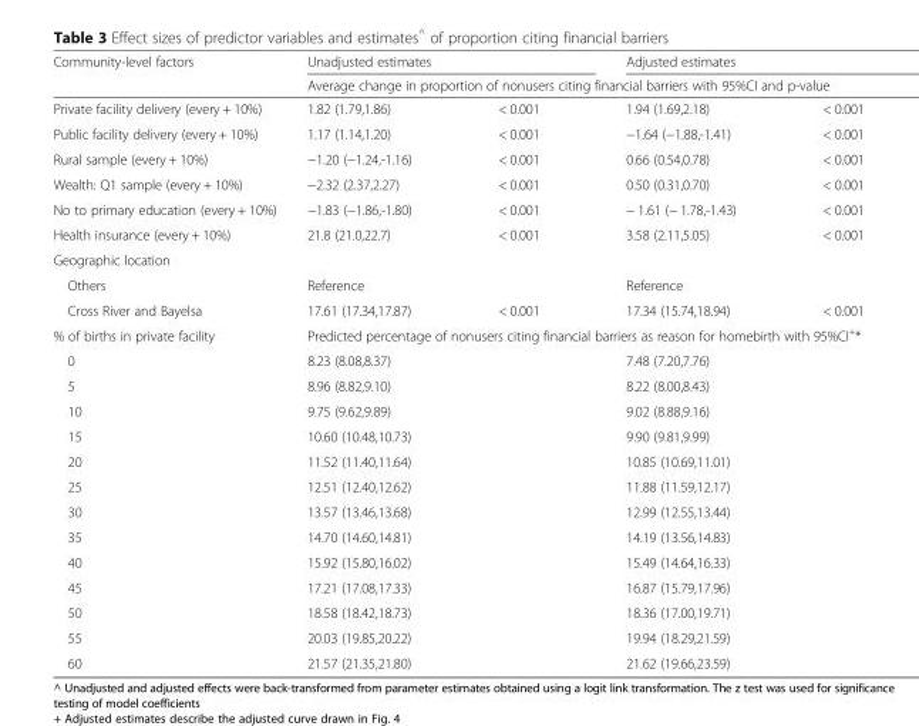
<table><thead><tr><td rowspan="3">Community-level factors Private facility delivery (every + 10%)</td><td colspan="2">Unadjusted estimates</td><td colspan="2">Adjusted estimates</td></tr><tr><td colspan="4">Average change in proportion of nonusers citing financial barriers with 95%CI and p-value</td></tr><tr><td>1.82 (1.79,1.86)</td><td>&lt; 0.001</td><td>1.94 (1.69,2.18)</td><td>&lt; 0.001</td></tr></thead><tbody><tr><td>Public facility delivery (every + 10%)</td><td>1.17 (1.14,1.20)</td><td>&lt; 0.001</td><td>−1.64 (−1.88,-1.41)</td><td>&lt; 0.001</td></tr><tr><td>Rural sample (every + 10%)</td><td>−1.20 (−1.24,-1.16)</td><td>&lt; 0.001</td><td>0.66 (0.54,0.78)</td><td>&lt; 0.001</td></tr><tr><td>Wealth: Q1 sample (every + 10%)</td><td>−2.32 (2.37,2.27)</td><td>&lt; 0.001</td><td>0.50 (0.31,0.70)</td><td>&lt; 0.001</td></tr><tr><td>No to primary education (every + 10%)</td><td>−1.83 (−1.86,-1.80)</td><td>&lt; 0.001</td><td>− 1.61 (− 1.78,-1.43)</td><td>&lt; 0.001</td></tr><tr><td>Health insurance (every + 10%)</td><td>21.8 (21.0,22.7)</td><td>&lt; 0.001</td><td>3.58 (2.11,5.05)</td><td>&lt; 0.001</td></tr><tr><td colspan="5">Geographic location</td></tr><tr><td>Others</td><td>Reference</td><td></td><td>Reference</td><td></td></tr><tr><td>Cross River and Bayelsa</td><td>17.61 (17.34,17.87)</td><td>&lt; 0.001</td><td>17.34 (15.74,18.94)</td><td>&lt; 0.001</td></tr><tr><td>% of births in private facility</td><td colspan="4">Predicted percentage of nonusers citing financial barriers as reason for homebirth with 95%CI<sup>+</sup>*</td></tr><tr><td>0</td><td colspan="2">8.23 (8.08,8.37)</td><td colspan="2">7.48 (7.20,7.76)</td></tr><tr><td>5</td><td colspan="2">8.96 (8.82,9.10)</td><td colspan="2">8.22 (8.00,8.43)</td></tr><tr><td>10</td><td colspan="2">9.75 (9.62,9.89)</td><td colspan="2">9.02 (8.88,9.16)</td></tr><tr><td>15</td><td colspan="2">10.60 (10.48,10.73)</td><td colspan="2">9.90 (9.81,9.99)</td></tr><tr><td>20</td><td colspan="2">11.52 (11.40,11.64)</td><td colspan="2">10.85 (10.69,11.01)</td></tr><tr><td>25</td><td colspan="2">12.51 (12.40,12.62)</td><td colspan="2">11.88 (11.59,12.17)</td></tr><tr><td>30</td><td colspan="2">13.57 (13.46,13.68)</td><td colspan="2">12.99 (12.55,13.44)</td></tr><tr><td>35</td><td colspan="2">14.70 (14.60,14.81)</td><td colspan="2">14.19 (13.56,14.83)</td></tr><tr><td>40</td><td colspan="2">15.92 (15.80,16.02)</td><td colspan="2">15.49 (14.64,16.33)</td></tr><tr><td>45</td><td colspan="2">17.21 (17.08,17.33)</td><td colspan="2">16.87 (15.79,17.96)</td></tr><tr><td>50</td><td colspan="2">18.58 (18.42,18.73)</td><td colspan="2">18.36 (17.00,19.71)</td></tr><tr><td>55</td><td colspan="2">20.03 (19.85,20.22)</td><td colspan="2">19.94 (18.29,21.59)</td></tr><tr><td>60</td><td colspan="2">21.57 (21.35,21.80)</td><td colspan="2">21.62 (19.66,23.59)</td></tr></tbody></table>